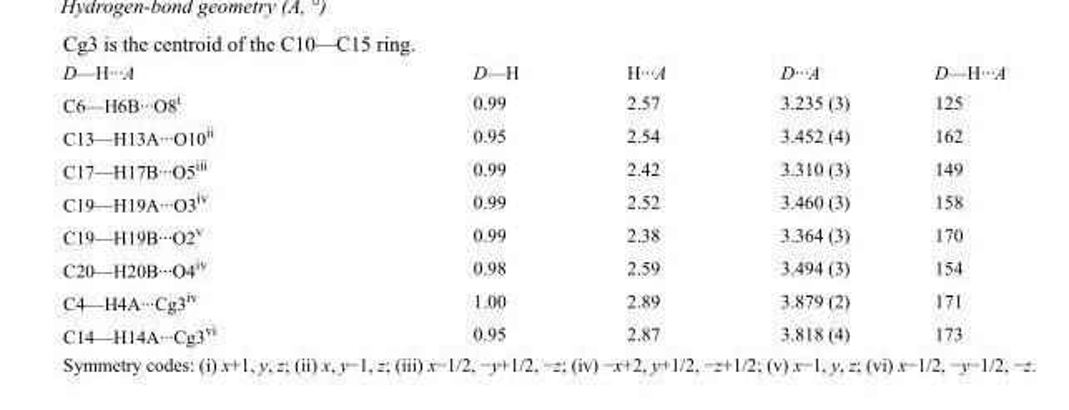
<table><tbody><tr><td>D—H···A</td><td>D—H</td><td>H···A</td><td>D···A</td><td>D—H···A</td></tr><tr><td>C6—H6B···O8<sup>i</sup></td><td>0.99</td><td>2.57</td><td>3.235 (3)</td><td>125</td></tr><tr><td>C13—H13A···O10<sup>ii</sup></td><td>0.95</td><td>2.54</td><td>3.452 (4)</td><td>162</td></tr><tr><td>C17—H17B···O5<sup>iii</sup></td><td>0.99</td><td>2.42</td><td>3.310 (3)</td><td>149</td></tr><tr><td>C19—H19A···O3<sup>iv</sup></td><td>0.99</td><td>2.52</td><td>3.460 (3)</td><td>158</td></tr><tr><td>C19—H19B···O2<sup>v</sup></td><td>0.99</td><td>2.38</td><td>3.364 (3)</td><td>170</td></tr><tr><td>C20—H20B···O4<sup>iv</sup></td><td>0.98</td><td>2.59</td><td>3.494 (3)</td><td>154</td></tr><tr><td>C4—H4A···Cg3<sup>iv</sup></td><td>1.00</td><td>2.89</td><td>3.879 (2)</td><td>171</td></tr><tr><td>C14—H14A···Cg3<sup>vi</sup></td><td>0.95</td><td>2.87</td><td>3.818 (4)</td><td>173</td></tr></tbody></table>